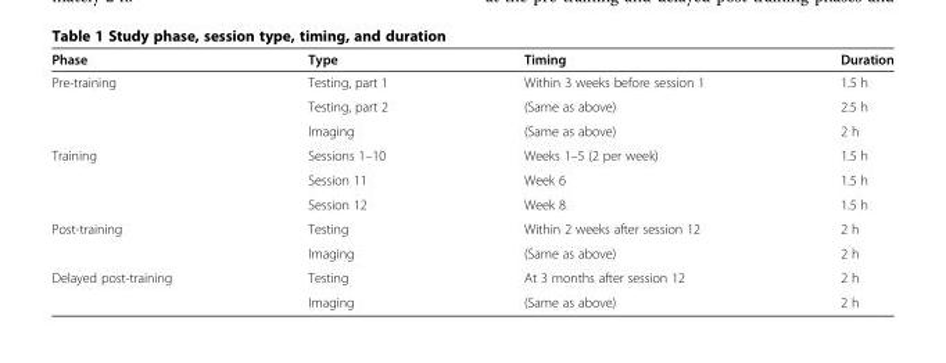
<table><thead><tr><td>Phase</td><td>Type</td><td>Timing</td><td>Duration</td></tr></thead><tbody><tr><td rowspan="3">Pre-training</td><td>Testing, part 1</td><td>Within 3 weeks before session 1</td><td>1.5 h</td></tr><tr><td>Testing, part 2</td><td>(Same as above)</td><td>2.5 h</td></tr><tr><td>Imaging</td><td>(Same as above)</td><td>2 h</td></tr><tr><td rowspan="3">Training</td><td>Sessions 1–10</td><td>Weeks 1–5 (2 per week)</td><td>1.5 h</td></tr><tr><td>Session 11</td><td>Week 6</td><td>1.5 h</td></tr><tr><td>Session 12</td><td>Week 8</td><td>1.5 h</td></tr><tr><td rowspan="2">Post-training</td><td>Testing</td><td>Within 2 weeks after session 12</td><td>2 h</td></tr><tr><td>Imaging</td><td>(Same as above)</td><td>2 h</td></tr><tr><td rowspan="2">Delayed post-training</td><td>Testing</td><td>At 3 months after session 12</td><td>2 h</td></tr><tr><td>Imaging</td><td>(Same as above)</td><td>2 h</td></tr></tbody></table>